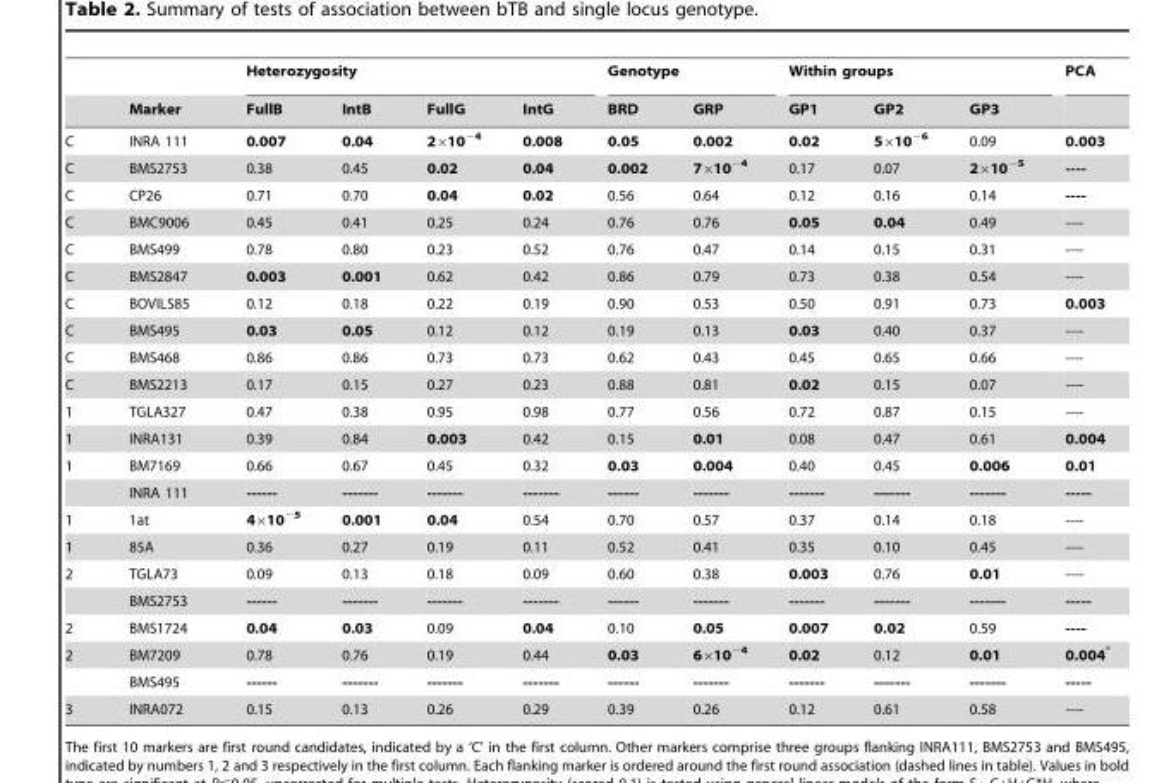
<table><thead><tr><td rowspan="2"></td><td rowspan="2">Marker</td><td colspan="4">Heterozygosity</td><td colspan="2">Genotype</td><td colspan="3">Within groups</td><td rowspan="2">PCA</td></tr><tr><td>FullB</td><td>IntB</td><td>FullG</td><td>IntG</td><td>BRD</td><td>GRP</td><td>GP1</td><td>GP2</td><td>GP3</td></tr></thead><tbody><tr><td>C</td><td>INRA 111</td><td>0.007</td><td>0.04</td><td>2×10<sup>−4</sup></td><td>0.008</td><td>0.05</td><td>0.002</td><td>0.02</td><td>5×10<sup>−6</sup></td><td>0.09</td><td>0.003</td></tr><tr><td>C</td><td>BMS2753</td><td>0.38</td><td>0.45</td><td>0.02</td><td>0.04</td><td>0.002</td><td>7×10<sup>−4</sup></td><td>0.17</td><td>0.07</td><td>2×10<sup>−5</sup></td><td>----</td></tr><tr><td>C</td><td>CP26</td><td>0.71</td><td>0.70</td><td>0.04</td><td>0.02</td><td>0.56</td><td>0.64</td><td>0.12</td><td>0.16</td><td>0.14</td><td>----</td></tr><tr><td>C</td><td>BMC9006</td><td>0.45</td><td>0.41</td><td>0.25</td><td>0.24</td><td>0.76</td><td>0.76</td><td>0.05</td><td>0.04</td><td>0.49</td><td>----</td></tr><tr><td>C</td><td>BMS499</td><td>0.78</td><td>0.80</td><td>0.23</td><td>0.52</td><td>0.76</td><td>0.47</td><td>0.14</td><td>0.15</td><td>0.31</td><td>----</td></tr><tr><td>C</td><td>BMS2847</td><td>0.003</td><td>0.001</td><td>0.62</td><td>0.42</td><td>0.86</td><td>0.79</td><td>0.73</td><td>0.38</td><td>0.54</td><td>----</td></tr><tr><td>C</td><td>BOVILS85</td><td>0.12</td><td>0.18</td><td>0.22</td><td>0.19</td><td>0.90</td><td>0.53</td><td>0.50</td><td>0.91</td><td>0.73</td><td>0.003</td></tr><tr><td>C</td><td>BMS495</td><td>0.03</td><td>0.05</td><td>0.12</td><td>0.12</td><td>0.19</td><td>0.13</td><td>0.03</td><td>0.40</td><td>0.37</td><td>----</td></tr><tr><td>C</td><td>BMS468</td><td>0.86</td><td>0.86</td><td>0.73</td><td>0.73</td><td>0.62</td><td>0.43</td><td>0.45</td><td>0.65</td><td>0.66</td><td>----</td></tr><tr><td>C</td><td>BMS2213</td><td>0.17</td><td>0.15</td><td>0.27</td><td>0.23</td><td>0.88</td><td>0.81</td><td>0.02</td><td>0.15</td><td>0.07</td><td>----</td></tr><tr><td>1</td><td>TGLA327</td><td>0.47</td><td>0.38</td><td>0.95</td><td>0.98</td><td>0.77</td><td>0.56</td><td>0.72</td><td>0.87</td><td>0.15</td><td>----</td></tr><tr><td>1</td><td>INRA131</td><td>0.39</td><td>0.84</td><td>0.003</td><td>0.42</td><td>0.15</td><td>0.01</td><td>0.08</td><td>0.47</td><td>0.61</td><td>0.004</td></tr><tr><td rowspan="2">1</td><td>BM7169</td><td>0.66</td><td>0.67</td><td>0.45</td><td>0.32</td><td>0.03</td><td>0.004</td><td>0.40</td><td>0.45</td><td>0.006</td><td>0.01</td></tr><tr><td>INRA 111</td><td>------</td><td>-------</td><td>-------</td><td>-------</td><td>------</td><td>-------</td><td>-------</td><td>-------</td><td>-------</td><td>-----</td></tr><tr><td>1</td><td>1at</td><td>4×10<sup>−5</sup></td><td>0.001</td><td>0.04</td><td>0.54</td><td>0.70</td><td>0.57</td><td>0.37</td><td>0.14</td><td>0.18</td><td>----</td></tr><tr><td>1</td><td>85A</td><td>0.36</td><td>0.27</td><td>0.19</td><td>0.11</td><td>0.52</td><td>0.41</td><td>0.35</td><td>0.10</td><td>0.45</td><td>----</td></tr><tr><td rowspan="2">2</td><td>TGLA73</td><td>0.09</td><td>0.13</td><td>0.18</td><td>0.09</td><td>0.60</td><td>0.38</td><td>0.003</td><td>0.76</td><td>0.01</td><td>----</td></tr><tr><td>BMS2753</td><td>------</td><td>-------</td><td>-------</td><td>-------</td><td>------</td><td>-------</td><td>-------</td><td>-------</td><td>-------</td><td>-----</td></tr><tr><td>2</td><td>BMS1724</td><td>0.04</td><td>0.03</td><td>0.09</td><td>0.04</td><td>0.10</td><td>0.05</td><td>0.007</td><td>0.02</td><td>0.59</td><td>----</td></tr><tr><td rowspan="2">2</td><td>BM7209</td><td>0.78</td><td>0.76</td><td>0.19</td><td>0.44</td><td>0.03</td><td>6×10<sup>−4</sup></td><td>0.02</td><td>0.12</td><td>0.01</td><td>0.004*</td></tr><tr><td>BMS495</td><td>------</td><td>-------</td><td>-------</td><td>-------</td><td>------</td><td>-------</td><td>-------</td><td>-------</td><td>-------</td><td>-----</td></tr><tr><td>3</td><td>INRA072</td><td>0.15</td><td>0.13</td><td>0.26</td><td>0.29</td><td>0.39</td><td>0.26</td><td>0.12</td><td>0.61</td><td>0.58</td><td>----</td></tr></tbody></table>